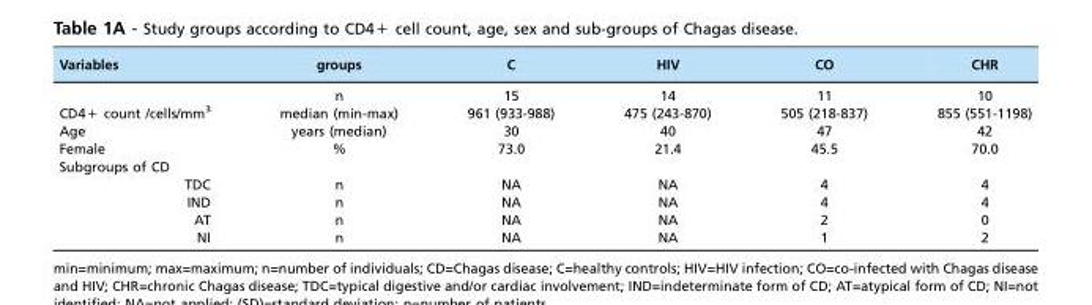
<table><thead><tr><td>Variables</td><td>groups</td><td>C</td><td>HIV</td><td>CO</td><td>CHR</td></tr></thead><tbody><tr><td></td><td>n</td><td>15</td><td>14</td><td>11</td><td>10</td></tr><tr><td>CD4+ count /cells/mm<sup>3</sup></td><td>median (min-max)</td><td>961 (933-988)</td><td>475 (243-870)</td><td>505 (218-837)</td><td>855 (551-1198)</td></tr><tr><td>Age</td><td>years (median)</td><td>30</td><td>40</td><td>47</td><td>42</td></tr><tr><td>Female</td><td>%</td><td>73.0</td><td>21.4</td><td>45.5</td><td>70.0</td></tr><tr><td colspan="6">Subgroups of CD</td></tr><tr><td>TDC</td><td>n</td><td>NA</td><td>NA</td><td>4</td><td>4</td></tr><tr><td>IND</td><td>n</td><td>NA</td><td>NA</td><td>4</td><td>4</td></tr><tr><td>AT</td><td>n</td><td>NA</td><td>NA</td><td>2</td><td>0</td></tr><tr><td>NI</td><td>n</td><td>NA</td><td>NA</td><td>1</td><td>2</td></tr></tbody></table>